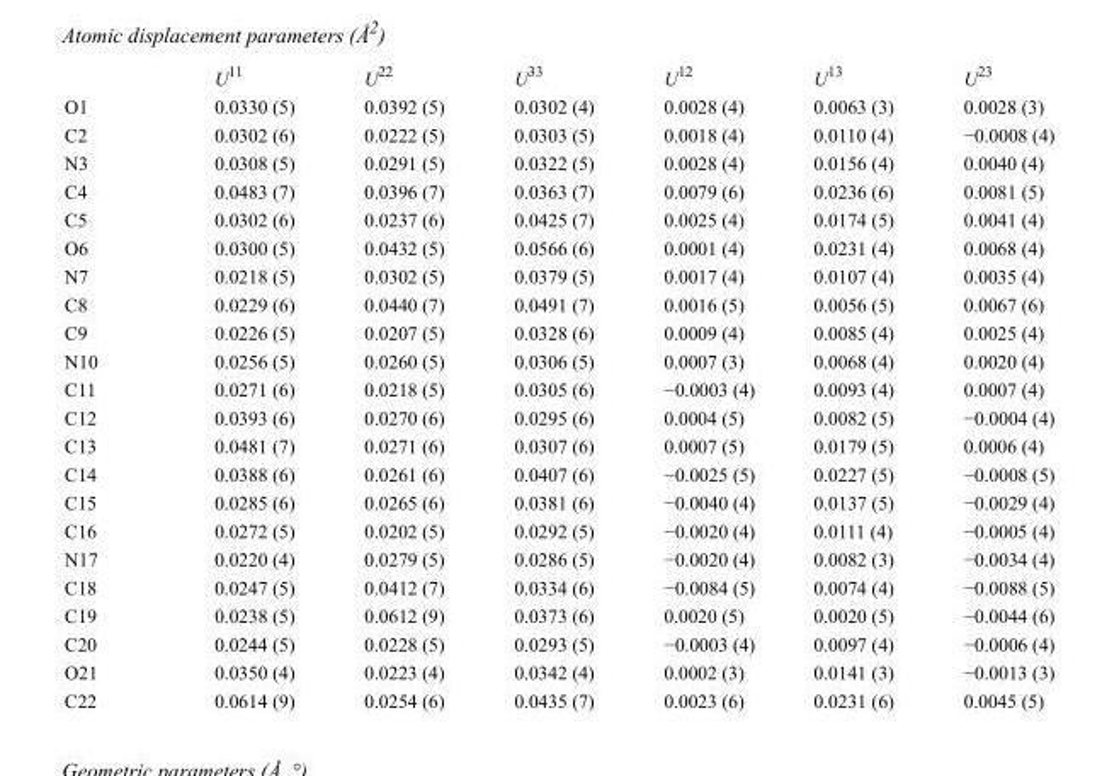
<table><thead><tr><td></td><td>U<sup>11</sup></td><td>U<sup>22</sup></td><td>U<sup>33</sup></td><td>U<sup>12</sup></td><td>U<sup>13</sup></td><td>U<sup>23</sup></td></tr></thead><tbody><tr><td>O1</td><td>0.0330 (5)</td><td>0.0392 (5)</td><td>0.0302 (4)</td><td>0.0028 (4)</td><td>0.0063 (3)</td><td>0.0028 (3)</td></tr><tr><td>C2</td><td>0.0302 (6)</td><td>0.0222 (5)</td><td>0.0303 (5)</td><td>0.0018 (4)</td><td>0.0110 (4)</td><td>−0.0008 (4)</td></tr><tr><td>N3</td><td>0.0308 (5)</td><td>0.0291 (5)</td><td>0.0322 (5)</td><td>0.0028 (4)</td><td>0.0156 (4)</td><td>0.0040 (4)</td></tr><tr><td>C4</td><td>0.0483 (7)</td><td>0.0396 (7)</td><td>0.0363 (7)</td><td>0.0079 (6)</td><td>0.0236 (6)</td><td>0.0081 (5)</td></tr><tr><td>C5</td><td>0.0302 (6)</td><td>0.0237 (6)</td><td>0.0425 (7)</td><td>0.0025 (4)</td><td>0.0174 (5)</td><td>0.0041 (4)</td></tr><tr><td>O6</td><td>0.0300 (5)</td><td>0.0432 (5)</td><td>0.0566 (6)</td><td>0.0001 (4)</td><td>0.0231 (4)</td><td>0.0068 (4)</td></tr><tr><td>N7</td><td>0.0218 (5)</td><td>0.0302 (5)</td><td>0.0379 (5)</td><td>0.0017 (4)</td><td>0.0107 (4)</td><td>0.0035 (4)</td></tr><tr><td>C8</td><td>0.0229 (6)</td><td>0.0440 (7)</td><td>0.0491 (7)</td><td>0.0016 (5)</td><td>0.0056 (5)</td><td>0.0067 (6)</td></tr><tr><td>C9</td><td>0.0226 (5)</td><td>0.0207 (5)</td><td>0.0328 (6)</td><td>0.0009 (4)</td><td>0.0085 (4)</td><td>0.0025 (4)</td></tr><tr><td>N10</td><td>0.0256 (5)</td><td>0.0260 (5)</td><td>0.0306 (5)</td><td>0.0007 (3)</td><td>0.0068 (4)</td><td>0.0020 (4)</td></tr><tr><td>C11</td><td>0.0271 (6)</td><td>0.0218 (5)</td><td>0.0305 (6)</td><td>−0.0003 (4)</td><td>0.0093 (4)</td><td>0.0007 (4)</td></tr><tr><td>C12</td><td>0.0393 (6)</td><td>0.0270 (6)</td><td>0.0295 (6)</td><td>0.0004 (5)</td><td>0.0082 (5)</td><td>−0.0004 (4)</td></tr><tr><td>C13</td><td>0.0481 (7)</td><td>0.0271 (6)</td><td>0.0307 (6)</td><td>0.0007 (5)</td><td>0.0179 (5)</td><td>0.0006 (4)</td></tr><tr><td>C14</td><td>0.0388 (6)</td><td>0.0261 (6)</td><td>0.0407 (6)</td><td>−0.0025 (5)</td><td>0.0227 (5)</td><td>−0.0008 (5)</td></tr><tr><td>C15</td><td>0.0285 (6)</td><td>0.0265 (6)</td><td>0.0381 (6)</td><td>−0.0040 (4)</td><td>0.0137 (5)</td><td>−0.0029 (4)</td></tr><tr><td>C16</td><td>0.0272 (5)</td><td>0.0202 (5)</td><td>0.0292 (5)</td><td>−0.0020 (4)</td><td>0.0111 (4)</td><td>−0.0005 (4)</td></tr><tr><td>N17</td><td>0.0220 (4)</td><td>0.0279 (5)</td><td>0.0286 (5)</td><td>−0.0020 (4)</td><td>0.0082 (3)</td><td>−0.0034 (4)</td></tr><tr><td>C18</td><td>0.0247 (5)</td><td>0.0412 (7)</td><td>0.0334 (6)</td><td>−0.0084 (5)</td><td>0.0074 (4)</td><td>−0.0088 (5)</td></tr><tr><td>C19</td><td>0.0238 (5)</td><td>0.0612 (9)</td><td>0.0373 (6)</td><td>0.0020 (5)</td><td>0.0020 (5)</td><td>−0.0044 (6)</td></tr><tr><td>C20</td><td>0.0244 (5)</td><td>0.0228 (5)</td><td>0.0293 (5)</td><td>−0.0003 (4)</td><td>0.0097 (4)</td><td>−0.0006 (4)</td></tr><tr><td>O21</td><td>0.0350 (4)</td><td>0.0223 (4)</td><td>0.0342 (4)</td><td>0.0002 (3)</td><td>0.0141 (3)</td><td>−0.0013 (3)</td></tr><tr><td>C22</td><td>0.0614 (9)</td><td>0.0254 (6)</td><td>0.0435 (7)</td><td>0.0023 (6)</td><td>0.0231 (6)</td><td>0.0045 (5)</td></tr></tbody></table>